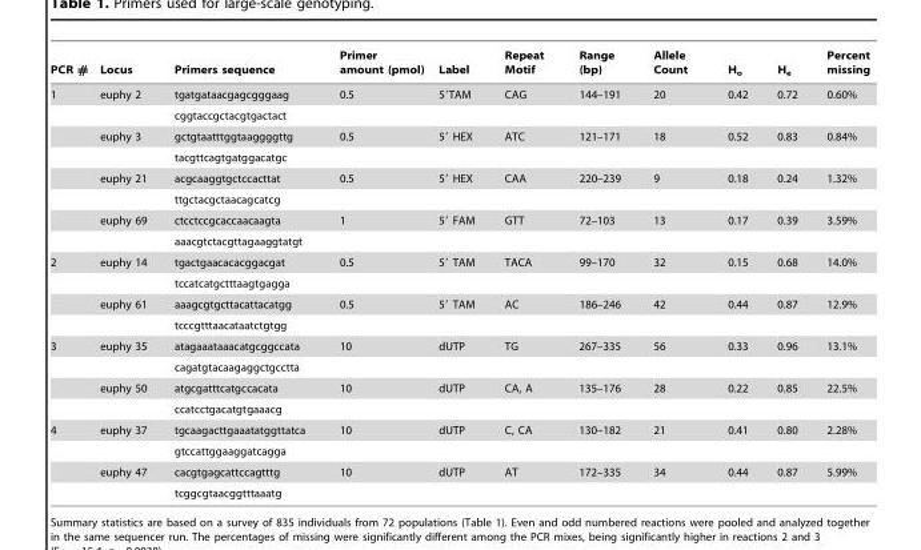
<table><thead><tr><td>PCR #</td><td>Locus</td><td>Primers sequence</td><td>Primer amount (pmol)</td><td>Label</td><td>Repeat Motif</td><td>Range (bp)</td><td>Allele Count</td><td>H<sub>o</sub></td><td>H<sub>e</sub></td><td>Percent missing</td></tr></thead><tbody><tr><td rowspan="8">1</td><td>euphy 2</td><td>tgatgataacgagcgggaag</td><td>0.5</td><td>5′TAM</td><td>CAG</td><td>144–191</td><td>20</td><td>0.42</td><td>0.72</td><td>0.60%</td></tr><tr><td></td><td>cggtaccgctacgtgactact</td><td></td><td></td><td></td><td></td><td></td><td></td><td></td><td></td></tr><tr><td>euphy 3</td><td>gctgtaatttggtaaggggttg</td><td>0.5</td><td>5′ HEX</td><td>ATC</td><td>121–171</td><td>18</td><td>0.52</td><td>0.83</td><td>0.84%</td></tr><tr><td></td><td>tacgttcagtgatggacatgc</td><td></td><td></td><td></td><td></td><td></td><td></td><td></td><td></td></tr><tr><td>euphy 21</td><td>acgcaaggtgctccacttat</td><td>0.5</td><td>5′ HEX</td><td>CAA</td><td>220–239</td><td>9</td><td>0.18</td><td>0.24</td><td>1.32%</td></tr><tr><td></td><td>ttgctacgctaacagcatcg</td><td></td><td></td><td></td><td></td><td></td><td></td><td></td><td></td></tr><tr><td>euphy 69</td><td>ctcctccgcaccaacaagta</td><td>1</td><td>5′ FAM</td><td>GTT</td><td>72–103</td><td>13</td><td>0.17</td><td>0.39</td><td>3.59%</td></tr><tr><td></td><td>aaacgtctacgttagaaggtatgt</td><td></td><td></td><td></td><td></td><td></td><td></td><td></td><td></td></tr><tr><td rowspan="4">2</td><td>euphy 14</td><td>tgactgaacacacggacgat</td><td>0.5</td><td>5′ TAM</td><td>TACA</td><td>99–170</td><td>32</td><td>0.15</td><td>0.68</td><td>14.0%</td></tr><tr><td></td><td>tccatcatgctttaagtgagga</td><td></td><td></td><td></td><td></td><td></td><td></td><td></td><td></td></tr><tr><td>euphy 61</td><td>aaagcgtgcttacattacatgg</td><td>0.5</td><td>5′ TAM</td><td>AC</td><td>186–246</td><td>42</td><td>0.44</td><td>0.87</td><td>12.9%</td></tr><tr><td></td><td>tcccgtttaacataatctgtgg</td><td></td><td></td><td></td><td></td><td></td><td></td><td></td><td></td></tr><tr><td rowspan="4">3</td><td>euphy 35</td><td>atagaaataaacatgcggccata</td><td>10</td><td>dUTP</td><td>TG</td><td>267–335</td><td>56</td><td>0.33</td><td>0.96</td><td>13.1%</td></tr><tr><td></td><td>cagatgtacaagaggctgcctta</td><td></td><td></td><td></td><td></td><td></td><td></td><td></td><td></td></tr><tr><td>euphy 50</td><td>atgcgatttcatgccacata</td><td>10</td><td>dUTP</td><td>CA, A</td><td>135–176</td><td>28</td><td>0.22</td><td>0.85</td><td>22.5%</td></tr><tr><td></td><td>ccatcctgacatgtgaaacg</td><td></td><td></td><td></td><td></td><td></td><td></td><td></td><td></td></tr><tr><td rowspan="4">4</td><td>euphy 37</td><td>tgcaagacttgaaatatggttatca</td><td>10</td><td>dUTP</td><td>C, CA</td><td>130–182</td><td>21</td><td>0.41</td><td>0.80</td><td>2.28%</td></tr><tr><td></td><td>gtccattggaaggatcagga</td><td></td><td></td><td></td><td></td><td></td><td></td><td></td><td></td></tr><tr><td>euphy 47</td><td>cacgtgagcattccagtttg</td><td>10</td><td>dUTP</td><td>AT</td><td>172–335</td><td>34</td><td>0.44</td><td>0.87</td><td>5.99%</td></tr><tr><td></td><td>tcggcgtaacggtttaaatg</td><td></td><td></td><td></td><td></td><td></td><td></td><td></td><td></td></tr></tbody></table>